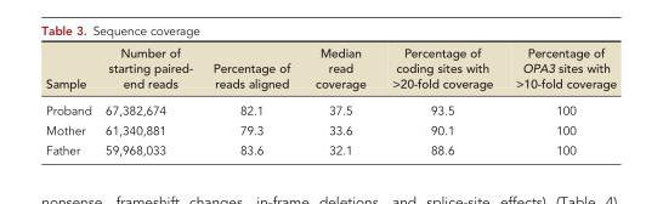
<table><thead><tr><td>Sample</td><td>Number of starting paired- end reads</td><td>Percentage of reads aligned</td><td>Median read coverage</td><td>Percentage of coding sites with &gt;20-fold coverage</td><td>Percentage of OPA3 sites with &gt;10-fold coverage</td></tr></thead><tbody><tr><td>Proband</td><td>67,382,674</td><td>82.1</td><td>37.5</td><td>93.5</td><td>100</td></tr><tr><td>Mother</td><td>61,340,881</td><td>79.3</td><td>33.6</td><td>90.1</td><td>100</td></tr><tr><td>Father</td><td>59,968,033</td><td>83.6</td><td>32.1</td><td>88.6</td><td>100</td></tr></tbody></table>